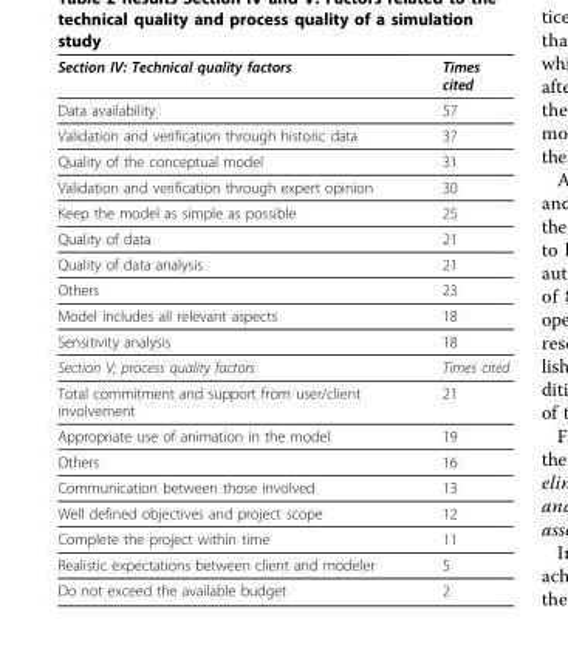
<table><thead><tr><td>Section IV: Technical quality factors</td><td>Times cited</td></tr></thead><tbody><tr><td>Data availability</td><td>57</td></tr><tr><td>Validation and verification through historic data</td><td>37</td></tr><tr><td>Quality of the conceptual model</td><td>31</td></tr><tr><td>Validation and verification through expert opinion</td><td>30</td></tr><tr><td>Keep the model as simple as possible</td><td>25</td></tr><tr><td>Quality of data</td><td>21</td></tr><tr><td>Quality of data analysis</td><td>21</td></tr><tr><td>Others</td><td>23</td></tr><tr><td>Model includes all relevant aspects</td><td>18</td></tr><tr><td>Sensitivity analysis</td><td>18</td></tr><tr><td>Section V; process quality factors</td><td>Times cited</td></tr><tr><td>Total commitment and support from user/client involvement</td><td>21</td></tr><tr><td>Appropriate use of animation in the model</td><td>19</td></tr><tr><td>Others</td><td>16</td></tr><tr><td>Communication between those involved</td><td>13</td></tr><tr><td>Well defined objectives and project scope</td><td>12</td></tr><tr><td>Complete the project within time</td><td>11</td></tr><tr><td>Realistic expectations between client and modeler</td><td>5</td></tr><tr><td>Do not exceed the available budget</td><td>2</td></tr></tbody></table>